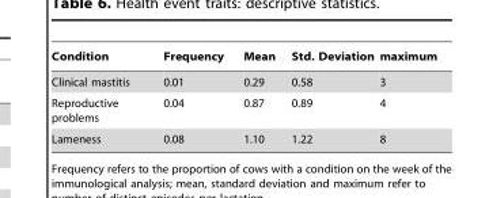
<table><thead><tr><td>Condition</td><td>Frequency</td><td>Mean</td><td>Std. Deviation</td><td>maximum</td></tr></thead><tbody><tr><td>Clinical mastitis</td><td>0.01</td><td>0.29</td><td>0.58</td><td>3</td></tr><tr><td>Reproductive problems</td><td>0.04</td><td>0.87</td><td>0.89</td><td>4</td></tr><tr><td>Lameness</td><td>0.08</td><td>1.10</td><td>1.22</td><td>8</td></tr></tbody></table>